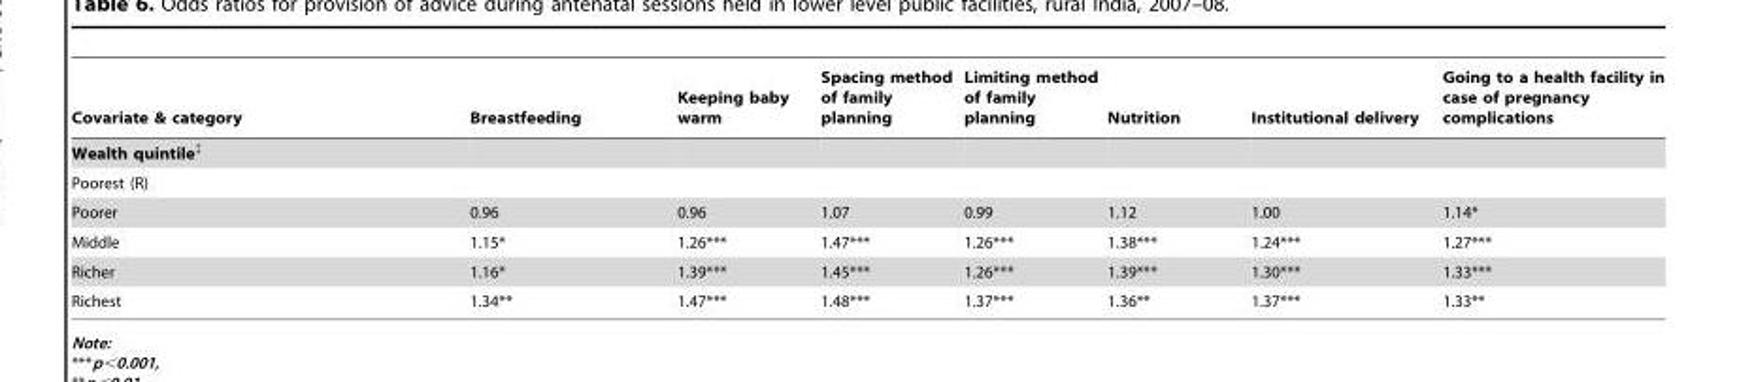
<table><thead><tr><td>Covariate &amp; category</td><td>Breastfeeding</td><td>Keeping baby warm</td><td>Spacing method of family planning</td><td>Limiting method of family planning</td><td>Nutrition</td><td>Institutional delivery</td><td>Going to a health facility in case of pregnancy complications</td></tr></thead><tbody><tr><td colspan="8">Wealth quintile‡</td></tr><tr><td colspan="8">Poorest (R)</td></tr><tr><td>Poorer</td><td>0.96</td><td>0.96</td><td>1.07</td><td>0.99</td><td>1.12</td><td>1.00</td><td>1.14*</td></tr><tr><td>Middle</td><td>1.15*</td><td>1.26***</td><td>1.47***</td><td>1.26***</td><td>1.38***</td><td>1.24***</td><td>1.27***</td></tr><tr><td>Richer</td><td>1.16*</td><td>1.39***</td><td>1.45***</td><td>1.26***</td><td>1.39***</td><td>1.30***</td><td>1.33***</td></tr><tr><td>Richest</td><td>1.34**</td><td>1.47***</td><td>1.48***</td><td>1.37***</td><td>1.36**</td><td>1.37***</td><td>1.33**</td></tr></tbody></table>